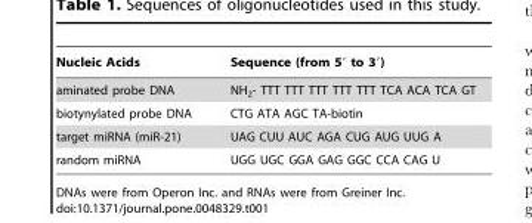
<table><thead><tr><td>Nucleic Acids</td><td>Sequence (from 5′ to 3′)</td></tr></thead><tbody><tr><td>aminated probe DNA</td><td>NH<sub>2</sub>- TTT TTT TTT TTT TTT TCA ACA TCA GT</td></tr><tr><td>biotynylated probe DNA</td><td>CTG ATA AGC TA-biotin</td></tr><tr><td>target miRNA (miR-21)</td><td>UAG CUU AUC AGA CUG AUG UUG A</td></tr><tr><td>random miRNA</td><td>UGG UGC GGA GAG GGC CCA CAG U</td></tr></tbody></table>